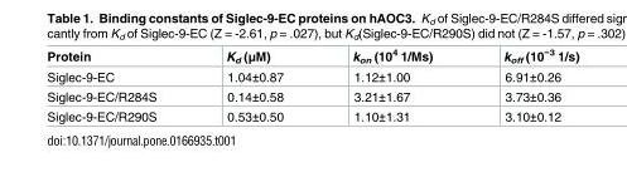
<table><thead><tr><td>Protein</td><td>K<sub>d</sub> (μM)</td><td>k<sub>on</sub> (10<sup>4</sup> 1/Ms)</td><td>k<sub>off</sub> (10<sup>−3</sup> 1/s)</td></tr></thead><tbody><tr><td>Siglec-9-EC</td><td>1.04±0.87</td><td>1.12±1.00</td><td>6.91±0.26</td></tr><tr><td>Siglec-9-EC/R284S</td><td>0.14±0.58</td><td>3.21±1.67</td><td>3.73±0.36</td></tr><tr><td>Siglec-9-EC/R290S</td><td>0.53±0.50</td><td>1.10±1.31</td><td>3.10±0.12</td></tr></tbody></table>